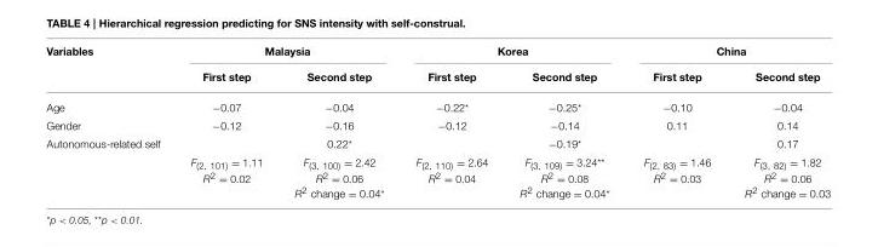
<table><thead><tr><td rowspan="2">Variables</td><td colspan="2">Malaysia</td><td colspan="2">Korea</td><td colspan="2">China</td></tr><tr><td>First step</td><td>Second step</td><td>First step</td><td>Second step</td><td>First step</td><td>Second step</td></tr></thead><tbody><tr><td>Age</td><td>−0.07</td><td>−0.04</td><td>−0.22*</td><td>−0.25*</td><td>−0.10</td><td>−0.04</td></tr><tr><td>Gender</td><td>−0.12</td><td>−0.16</td><td>−0.12</td><td>−0.14</td><td>0.11</td><td>0.14</td></tr><tr><td rowspan="2">Autonomous-related self</td><td></td><td>0.22*</td><td></td><td>−0.19*</td><td></td><td>0.17</td></tr><tr><td>F<sub>(2, 101)</sub> = 1.11 R<sup>2</sup> = 0.02</td><td>F<sub>(3, 100)</sub> = 2.42 R<sup>2</sup> = 0.06 R<sup>2</sup> change = 0.04*</td><td>F<sub>(2, 110)</sub> = 2.64 R<sup>2</sup> = 0.04</td><td>F<sub>(3, 109)</sub> = 3.24** R<sup>2</sup> = 0.08 R<sup>2</sup> change = 0.04*</td><td>F<sub>(2, 83)</sub> = 1.46 R<sup>2</sup> = 0.03</td><td>F<sub>(3, 82)</sub> = 1.82 R<sup>2</sup> = 0.06 R<sup>2</sup> change = 0.03</td></tr></tbody></table>